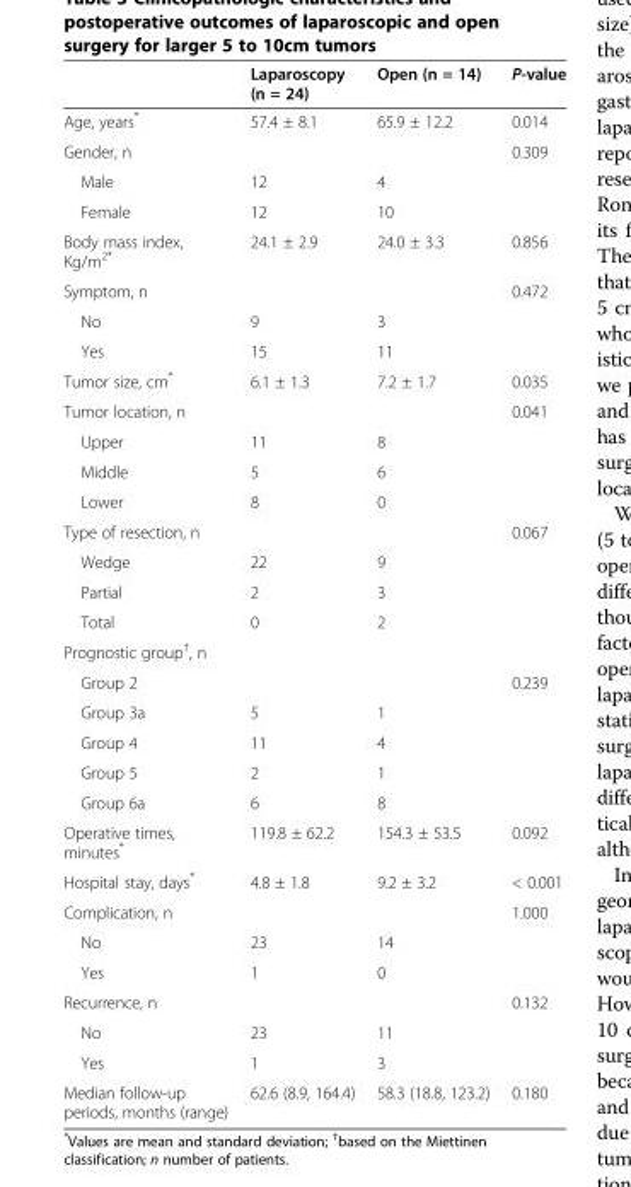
<table><thead><tr><td></td><td>Laparoscopy (n = 24)</td><td>Open (n = 14)</td><td>P-value</td></tr></thead><tbody><tr><td>Age, years*</td><td>57.4 ± 8.1</td><td>65.9 ± 12.2</td><td>0.014</td></tr><tr><td>Gender, n</td><td></td><td></td><td>0.309</td></tr><tr><td>Male</td><td>12</td><td>4</td><td></td></tr><tr><td>Female</td><td>12</td><td>10</td><td></td></tr><tr><td>Body mass index, Kg/m<sup>2*</sup></td><td>24.1 ± 2.9</td><td>24.0 ± 3.3</td><td>0.856</td></tr><tr><td>Symptom, n</td><td></td><td></td><td>0.472</td></tr><tr><td>No</td><td>9</td><td>3</td><td></td></tr><tr><td>Yes</td><td>15</td><td>11</td><td></td></tr><tr><td>Tumor size, cm*</td><td>6.1 ± 1.3</td><td>7.2 ± 1.7</td><td>0.035</td></tr><tr><td>Tumor location, n</td><td></td><td></td><td>0.041</td></tr><tr><td>Upper</td><td>11</td><td>8</td><td></td></tr><tr><td>Middle</td><td>5</td><td>6</td><td></td></tr><tr><td>Lower</td><td>8</td><td>0</td><td></td></tr><tr><td>Type of resection, n</td><td></td><td></td><td>0.067</td></tr><tr><td>Wedge</td><td>22</td><td>9</td><td></td></tr><tr><td>Partial</td><td>2</td><td>3</td><td></td></tr><tr><td>Total</td><td>0</td><td>2</td><td></td></tr><tr><td colspan="4">Prognostic group<sup>†</sup>, n</td></tr><tr><td>Group 2</td><td></td><td></td><td>0.239</td></tr><tr><td>Group 3a</td><td>5</td><td>1</td><td></td></tr><tr><td>Group 4</td><td>11</td><td>4</td><td></td></tr><tr><td>Group 5</td><td>2</td><td>1</td><td></td></tr><tr><td>Group 6a</td><td>6</td><td>8</td><td></td></tr><tr><td>Operative times, minutes*</td><td>119.8 ± 62.2</td><td>154.3 ± 53.5</td><td>0.092</td></tr><tr><td>Hospital stay, days*</td><td>4.8 ± 1.8</td><td>9.2 ± 3.2</td><td>&lt; 0.001</td></tr><tr><td>Complication, n</td><td></td><td></td><td>1.000</td></tr><tr><td>No</td><td>23</td><td>14</td><td></td></tr><tr><td>Yes</td><td>1</td><td>0</td><td></td></tr><tr><td>Recurrence, n</td><td></td><td></td><td>0.132</td></tr><tr><td>No</td><td>23</td><td>11</td><td></td></tr><tr><td>Yes</td><td>1</td><td>3</td><td></td></tr><tr><td>Median follow-up periods, months (range)</td><td>62.6 (8.9, 164.4)</td><td>58.3 (18.8, 123.2)</td><td>0.180</td></tr></tbody></table>